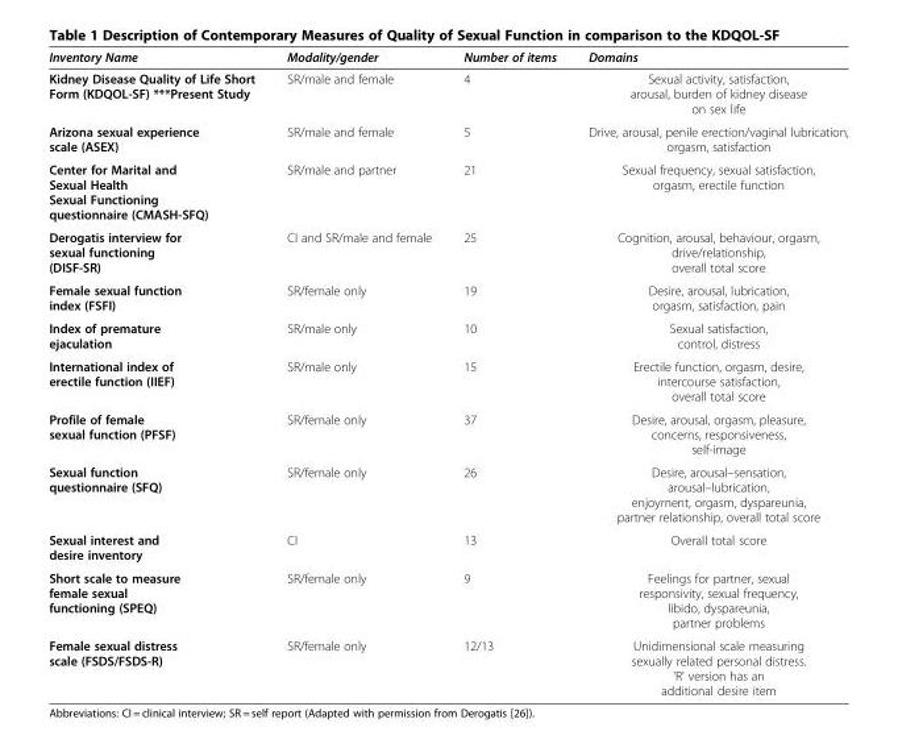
<table><thead><tr><td>Inventory Name</td><td>Modality/gender</td><td>Number of items</td><td>Domains</td></tr></thead><tbody><tr><td>Kidney Disease Quality of Life Short Form (KDQOL-SF) ***Present Study</td><td>SR/male and female</td><td>4</td><td>Sexual activity, satisfaction, arousal, burden of kidney disease on sex life</td></tr><tr><td>Arizona sexual experience scale (ASEX)</td><td>SR/male and female</td><td>5</td><td>Drive, arousal, penile erection/vaginal lubrication, orgasm, satisfaction</td></tr><tr><td>Center for Marital and Sexual Health Sexual Functioning questionnaire (CMASH-SFQ)</td><td>SR/male and partner</td><td>21</td><td>Sexual frequency, sexual satisfaction, orgasm, erectile function</td></tr><tr><td>Derogatis interview for sexual functioning (DISF-SR)</td><td>CI and SR/male and female</td><td>25</td><td>Cognition, arousal, behaviour, orgasm, drive/relationship, overall total score</td></tr><tr><td>Female sexual function index (FSFI)</td><td>SR/female only</td><td>19</td><td>Desire, arousal, lubrication, orgasm, satisfaction, pain</td></tr><tr><td>Index of premature ejaculation</td><td>SR/male only</td><td>10</td><td>Sexual satisfaction, control, distress</td></tr><tr><td>International index of erectile function (IIEF)</td><td>SR/male only</td><td>15</td><td>Erectile function, orgasm, desire, intercourse satisfaction, overall total score</td></tr><tr><td>Profile of female sexual function (PFSF)</td><td>SR/female only</td><td>37</td><td>Desire, arousal, orgasm, pleasure, concerns, responsiveness, self-image</td></tr><tr><td>Sexual function questionnaire (SFQ)</td><td>SR/female only</td><td>26</td><td>Desire, arousal–sensation, arousal–lubrication, enjoyment, orgasm, dyspareunia, partner relationship, overall total score</td></tr><tr><td>Sexual interest and desire inventory</td><td>CI</td><td>13</td><td>Overall total score</td></tr><tr><td>Short scale to measure female sexual functioning (SPEQ)</td><td>SR/female only</td><td>9</td><td>Feelings for partner, sexual responsivity, sexual frequency, libido, dyspareunia, partner problems</td></tr><tr><td>Female sexual distress scale (FSDS/FSDS-R)</td><td>SR/female only</td><td>12/13</td><td>Unidimensional scale measuring sexually related personal distress. &#x27;R&#x27; version has an additional desire item</td></tr></tbody></table>